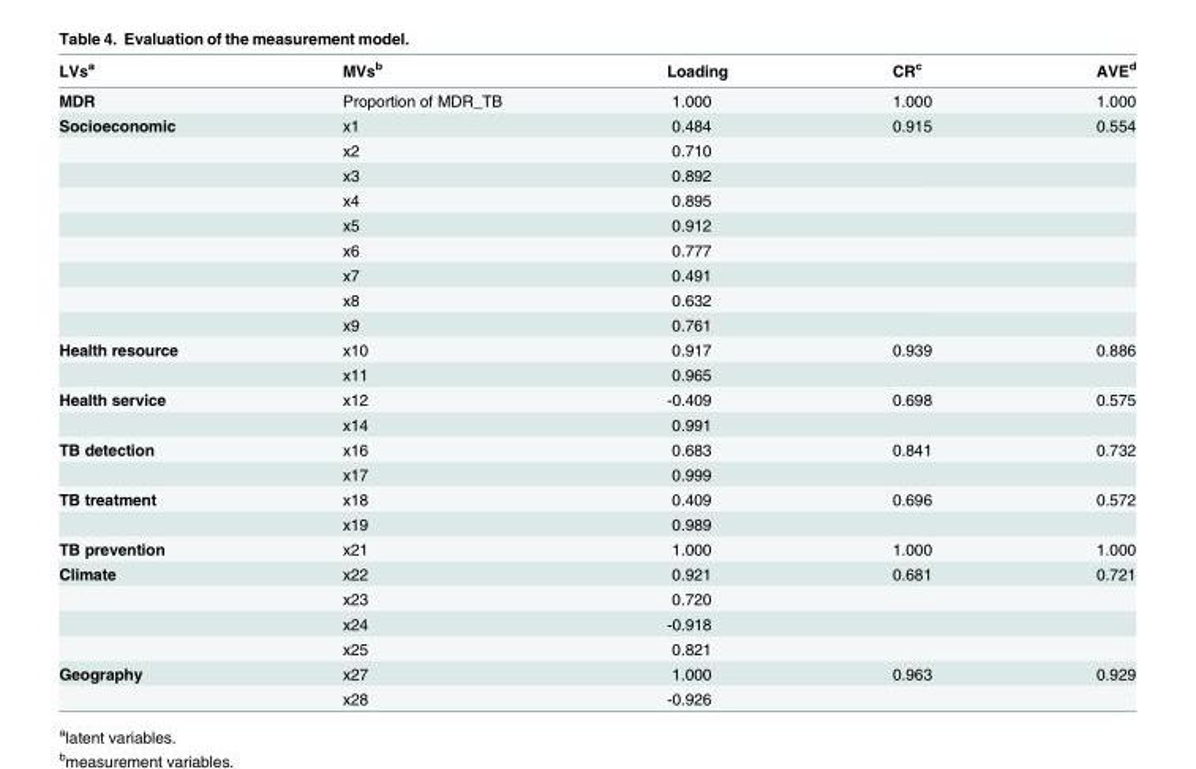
<table><thead><tr><td>LVs<sup>a</sup></td><td>MVs<sup>b</sup></td><td>Loading</td><td>CR<sup>c</sup></td><td>AVE<sup>d</sup></td></tr></thead><tbody><tr><td>MDR</td><td>Proportion of MDR_TB</td><td>1.000</td><td>1.000</td><td>1.000</td></tr><tr><td rowspan="9">Socioeconomic</td><td>x1</td><td>0.484</td><td>0.915</td><td>0.554</td></tr><tr><td>x2</td><td>0.710</td><td></td><td></td></tr><tr><td>x3</td><td>0.892</td><td></td><td></td></tr><tr><td>x4</td><td>0.895</td><td></td><td></td></tr><tr><td>x5</td><td>0.912</td><td></td><td></td></tr><tr><td>x6</td><td>0.777</td><td></td><td></td></tr><tr><td>x7</td><td>0.491</td><td></td><td></td></tr><tr><td>x8</td><td>0.632</td><td></td><td></td></tr><tr><td>x9</td><td>0.761</td><td></td><td></td></tr><tr><td rowspan="2">Health resource</td><td>x10</td><td>0.917</td><td>0.939</td><td>0.886</td></tr><tr><td>x11</td><td>0.965</td><td></td><td></td></tr><tr><td rowspan="2">Health service</td><td>x12</td><td>-0.409</td><td>0.698</td><td>0.575</td></tr><tr><td>x14</td><td>0.991</td><td></td><td></td></tr><tr><td rowspan="2">TB detection</td><td>x16</td><td>0.683</td><td>0.841</td><td>0.732</td></tr><tr><td>x17</td><td>0.999</td><td></td><td></td></tr><tr><td rowspan="2">TB treatment</td><td>x18</td><td>0.409</td><td>0.696</td><td>0.572</td></tr><tr><td>x19</td><td>0.989</td><td></td><td></td></tr><tr><td>TB prevention</td><td>x21</td><td>1.000</td><td>1.000</td><td>1.000</td></tr><tr><td rowspan="4">Climate</td><td>x22</td><td>0.921</td><td>0.681</td><td>0.721</td></tr><tr><td>x23</td><td>0.720</td><td></td><td></td></tr><tr><td>x24</td><td>-0.918</td><td></td><td></td></tr><tr><td>x25</td><td>0.821</td><td></td><td></td></tr><tr><td rowspan="2">Geography</td><td>x27</td><td>1.000</td><td>0.963</td><td>0.929</td></tr><tr><td>x28</td><td>-0.926</td><td></td><td></td></tr></tbody></table>